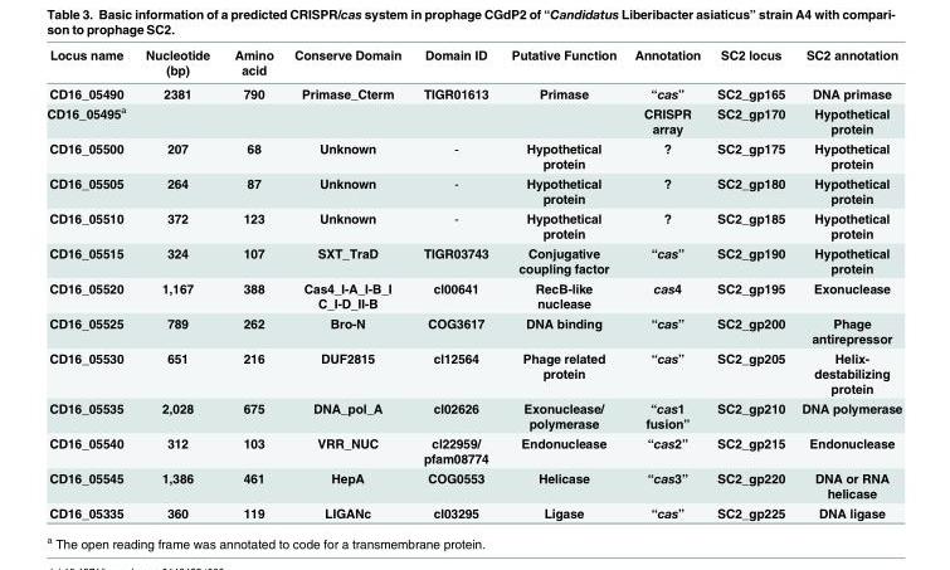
<table><thead><tr><td>Locus name</td><td>Nucleotide (bp)</td><td>Amino acid</td><td>Conserve Domain</td><td>Domain ID</td><td>Putative Function</td><td>Annotation</td><td>SC2 locus</td><td>SC2 annotation</td></tr></thead><tbody><tr><td>CD16_05490</td><td>2381</td><td>790</td><td>Primase_Cterm</td><td>TIGR01613</td><td>Primase</td><td>“cas”</td><td>SC2_gp165</td><td>DNA primase</td></tr><tr><td>CD16_05495<sup>a</sup></td><td></td><td></td><td></td><td></td><td></td><td>CRISPR array</td><td>SC2_gp170</td><td>Hypothetical protein</td></tr><tr><td>CD16_05500</td><td>207</td><td>68</td><td>Unknown</td><td>-</td><td>Hypothetical protein</td><td>?</td><td>SC2_gp175</td><td>Hypothetical protein</td></tr><tr><td>CD16_05505</td><td>264</td><td>87</td><td>Unknown</td><td>-</td><td>Hypothetical protein</td><td>?</td><td>SC2_gp180</td><td>Hypothetical protein</td></tr><tr><td>CD16_05510</td><td>372</td><td>123</td><td>Unknown</td><td>-</td><td>Hypothetical protein</td><td>?</td><td>SC2_gp185</td><td>Hypothetical protein</td></tr><tr><td>CD16_05515</td><td>324</td><td>107</td><td>SXT_TraD</td><td>TIGR03743</td><td>Conjugative coupling factor</td><td>“cas”</td><td>SC2_gp190</td><td>Hypothetical protein</td></tr><tr><td>CD16_05520</td><td>1,167</td><td>388</td><td>Cas4_I-A_I-B_I C_I-D_II-B</td><td>cl00641</td><td>RecB-like nuclease</td><td>cas4</td><td>SC2_gp195</td><td>Exonuclease</td></tr><tr><td>CD16_05525</td><td>789</td><td>262</td><td>Bro-N</td><td>COG3617</td><td>DNA binding</td><td>“cas”</td><td>SC2_gp200</td><td>Phage antirepressor</td></tr><tr><td>CD16_05530</td><td>651</td><td>216</td><td>DUF2815</td><td>cl12564</td><td>Phage related protein</td><td>“cas”</td><td>SC2_gp205</td><td>Helix- destabilizing protein</td></tr><tr><td>CD16_05535</td><td>2,028</td><td>675</td><td>DNA_pol_A</td><td>cl02626</td><td>Exonuclease/ polymerase</td><td>“cas1 fusion”</td><td>SC2_gp210</td><td>DNA polymerase</td></tr><tr><td>CD16_05540</td><td>312</td><td>103</td><td>VRR_NUC</td><td>cl22959/ pfam08774</td><td>Endonuclease</td><td>“cas2”</td><td>SC2_gp215</td><td>Endonuclease</td></tr><tr><td>CD16_05545</td><td>1,386</td><td>461</td><td>HepA</td><td>COG0553</td><td>Helicase</td><td>“cas3”</td><td>SC2_gp220</td><td>DNA or RNA helicase</td></tr><tr><td>CD16_05335</td><td>360</td><td>119</td><td>LIGANc</td><td>cl03295</td><td>Ligase</td><td>“cas”</td><td>SC2_gp225</td><td>DNA ligase</td></tr></tbody></table>